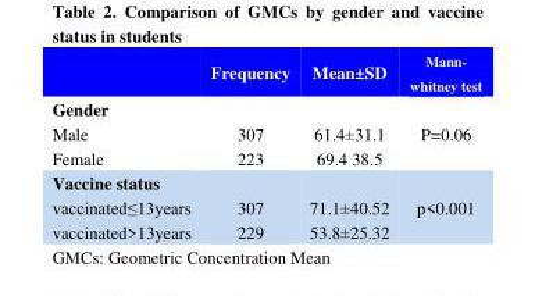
<table><thead><tr><td></td><td>Frequency</td><td>Mean±SD</td><td>Mann- whitney test</td></tr></thead><tbody><tr><td colspan="4">Gender</td></tr><tr><td>Male Female</td><td>307 223</td><td>61.4±31.1 69.4 38.5</td><td>P=0.06</td></tr><tr><td colspan="4">Vaccine status</td></tr><tr><td>vaccinated≤13years vaccinated&gt;13years</td><td>307 229</td><td>71.1±40.52 53.8±25.32</td><td>p&lt;0.001</td></tr></tbody></table>